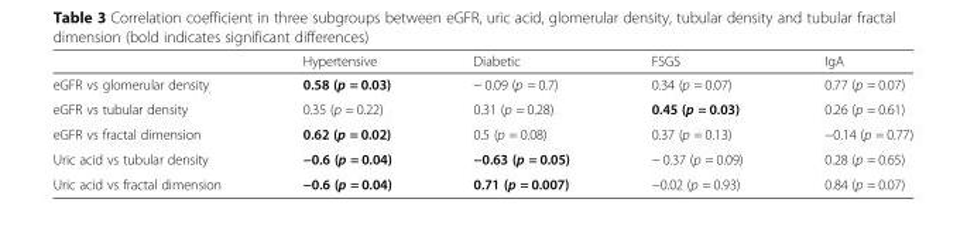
<table><thead><tr><td></td><td>Hypertensive</td><td>Diabetic</td><td>FSGS</td><td>IgA</td></tr></thead><tbody><tr><td>eGFR vs glomerular density</td><td>0.58 (p = 0.03)</td><td>− 0.09 (p = 0.7)</td><td>0.34 (p = 0.07)</td><td>0.77 (p = 0.07)</td></tr><tr><td>eGFR vs tubular density</td><td>0.35 (p = 0.22)</td><td>0.31 (p = 0.28)</td><td>0.45 (p = 0.03)</td><td>0.26 (p = 0.61)</td></tr><tr><td>eGFR vs fractal dimension</td><td>0.62 (p = 0.02)</td><td>0.5 (p = 0.08)</td><td>0.37 (p = 0.13)</td><td>−0.14 (p = 0.77)</td></tr><tr><td>Uric acid vs tubular density</td><td>−0.6 (p = 0.04)</td><td>−0.63 (p = 0.05)</td><td>− 0.37 (p = 0.09)</td><td>0.28 (p = 0.65)</td></tr><tr><td>Uric acid vs fractal dimension</td><td>−0.6 (p = 0.04)</td><td>0.71 (p = 0.007)</td><td>−0.02 (p = 0.93)</td><td>0.84 (p = 0.07)</td></tr></tbody></table>